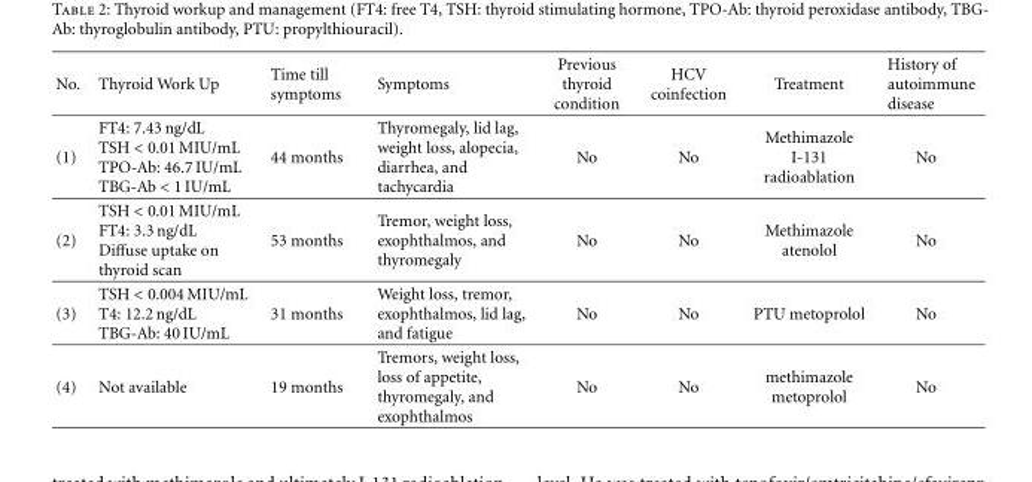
<table><thead><tr><td>No.</td><td>Thyroid Work Up</td><td>Time till symptoms</td><td>Symptoms</td><td>Previous thyroid condition</td><td>HCV coinfection</td><td>Treatment</td><td>History of autoimmune disease</td></tr></thead><tbody><tr><td>(1)</td><td>FT4: 7.43 ng/dL TSH &lt; 0.01 MIU/mL TPO-Ab: 46.7 IU/mL TBG-Ab &lt; 1 IU/mL</td><td>44 months</td><td>Thyromegaly, lid lag, weight loss, alopecia, diarrhea, and tachycardia</td><td>No</td><td>No</td><td>Methimazole I-131 radioablation</td><td>No</td></tr><tr><td>(2)</td><td>TSH &lt; 0.01 MIU/mL FT4: 3.3 ng/dL Diffuse uptake on thyroid scan</td><td>53 months</td><td>Tremor, weight loss, exophthalmos, and thyromegaly</td><td>No</td><td>No</td><td>Methimazole atenolol</td><td>No</td></tr><tr><td>(3)</td><td>TSH &lt; 0.004 MIU/mL T4: 12.2 ng/dL TBG-Ab: 40 IU/mL</td><td>31 months</td><td>Weight loss, tremor, exophthalmos, lid lag, and fatigue</td><td>No</td><td>No</td><td>PTU metoprolol</td><td>No</td></tr><tr><td>(4)</td><td>Not available</td><td>19 months</td><td>Tremors, weight loss, loss of appetite, thyromegaly, and exophthalmos</td><td>No</td><td>No</td><td>methimazole metoprolol</td><td>No</td></tr></tbody></table>